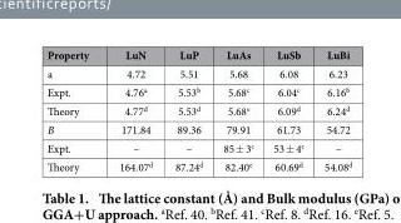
<table><thead><tr><td>Property</td><td>LuN</td><td>LuP</td><td>LuAs</td><td>LuSb</td><td>LuBi</td></tr></thead><tbody><tr><td>a</td><td>4.72</td><td>5.51</td><td>5.68</td><td>6.08</td><td>6.23</td></tr><tr><td>Expt.</td><td>4.76<sup>a</sup></td><td>5.53<sup>b</sup></td><td>5.68<sup>c</sup></td><td>6.04<sup>c</sup></td><td>6.16<sup>b</sup></td></tr><tr><td>Theory</td><td>4.77<sup>d</sup></td><td>5.53<sup>d</sup></td><td>5.68<sup>e</sup></td><td>6.09<sup>d</sup></td><td>6.24<sup>d</sup></td></tr><tr><td>B</td><td>171.84</td><td>89.36</td><td>79.91</td><td>61.73</td><td>54.72</td></tr><tr><td>Expt.</td><td>–</td><td>–</td><td>85 ± 3<sup>c</sup></td><td>53 ± 4<sup>c</sup></td><td>–</td></tr><tr><td>Theory</td><td>164.07<sup>d</sup></td><td>87.24<sup>d</sup></td><td>82.40<sup>e</sup></td><td>60.69<sup>d</sup></td><td>54.08<sup>d</sup></td></tr></tbody></table>